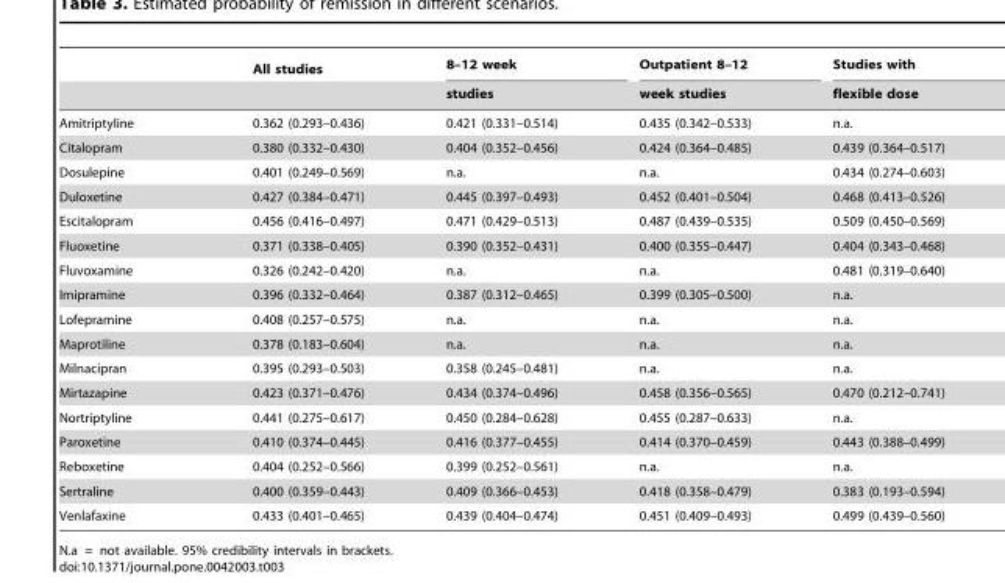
<table><thead><tr><td rowspan="2"></td><td rowspan="2">All studies</td><td rowspan="2">8–12 week studies</td><td rowspan="2">Outpatient 8–12 week studies</td><td rowspan="2">Studies with flexible dose</td></tr><tr></tr></thead><tbody><tr><td>Amitriptyline</td><td>0.362 (0.293–0.436)</td><td>0.421 (0.331–0.514)</td><td>0.435 (0.342–0.533)</td><td>n.a.</td></tr><tr><td>Citalopram</td><td>0.380 (0.332–0.430)</td><td>0.404 (0.352–0.456)</td><td>0.424 (0.364–0.485)</td><td>0.439 (0.364–0.517)</td></tr><tr><td>Dosulepine</td><td>0.401 (0.249–0.569)</td><td>n.a.</td><td>n.a.</td><td>0.434 (0.274–0.603)</td></tr><tr><td>Duloxetine</td><td>0.427 (0.384–0.471)</td><td>0.445 (0.397–0.493)</td><td>0.452 (0.401–0.504)</td><td>0.468 (0.413–0.526)</td></tr><tr><td>Escitalopram</td><td>0.456 (0.416–0.497)</td><td>0.471 (0.429–0.513)</td><td>0.487 (0.439–0.535)</td><td>0.509 (0.450–0.569)</td></tr><tr><td>Fluoxetine</td><td>0.371 (0.338–0.405)</td><td>0.390 (0.352–0.431)</td><td>0.400 (0.355–0.447)</td><td>0.404 (0.343–0.468)</td></tr><tr><td>Fluvoxamine</td><td>0.326 (0.242–0.420)</td><td>n.a.</td><td>n.a.</td><td>0.481 (0.319–0.640)</td></tr><tr><td>Imipramine</td><td>0.396 (0.332–0.464)</td><td>0.387 (0.312–0.465)</td><td>0.399 (0.305–0.500)</td><td>n.a.</td></tr><tr><td>Lofepramine</td><td>0.408 (0.257–0.575)</td><td>n.a.</td><td>n.a.</td><td>n.a.</td></tr><tr><td>Maprotiline</td><td>0.378 (0.183–0.604)</td><td>n.a.</td><td>n.a.</td><td>n.a.</td></tr><tr><td>Milnacipran</td><td>0.395 (0.293–0.503)</td><td>0.358 (0.245–0.481)</td><td>n.a.</td><td>n.a.</td></tr><tr><td>Mirtazapine</td><td>0.423 (0.371–0.476)</td><td>0.434 (0.374–0.496)</td><td>0.458 (0.356–0.565)</td><td>0.470 (0.212–0.741)</td></tr><tr><td>Nortriptyline</td><td>0.441 (0.275–0.617)</td><td>0.450 (0.284–0.628)</td><td>0.455 (0.287–0.633)</td><td>n.a.</td></tr><tr><td>Paroxetine</td><td>0.410 (0.374–0.445)</td><td>0.416 (0.377–0.455)</td><td>0.414 (0.370–0.459)</td><td>0.443 (0.388–0.499)</td></tr><tr><td>Reboxetine</td><td>0.404 (0.252–0.566)</td><td>0.399 (0.252–0.561)</td><td>n.a.</td><td>n.a.</td></tr><tr><td>Sertraline</td><td>0.400 (0.359–0.443)</td><td>0.409 (0.366–0.453)</td><td>0.418 (0.358–0.479)</td><td>0.383 (0.193–0.594)</td></tr><tr><td>Venlafaxine</td><td>0.433 (0.401–0.465)</td><td>0.439 (0.404–0.474)</td><td>0.451 (0.409–0.493)</td><td>0.499 (0.439–0.560)</td></tr></tbody></table>